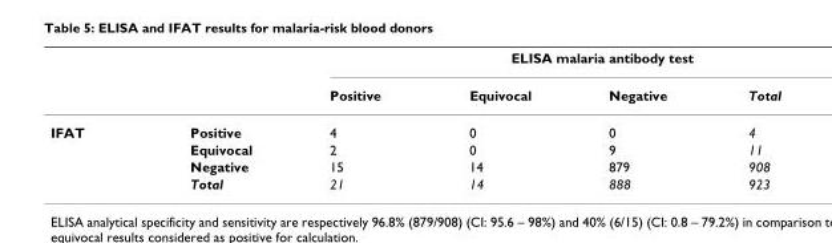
<table><thead><tr><td rowspan="2"></td><td rowspan="2"></td><td colspan="4">ELISA malaria antibody test</td></tr><tr><td>Positive</td><td>Equivocal</td><td>Negative</td><td>Total</td></tr></thead><tbody><tr><td rowspan="4">IFAT</td><td>Positive</td><td>4</td><td>0</td><td>0</td><td>4</td></tr><tr><td>Equivocal</td><td>2</td><td>0</td><td>9</td><td>11</td></tr><tr><td>Negative</td><td>15</td><td>14</td><td>879</td><td>908</td></tr><tr><td>Total</td><td>21</td><td>14</td><td>888</td><td>923</td></tr></tbody></table>